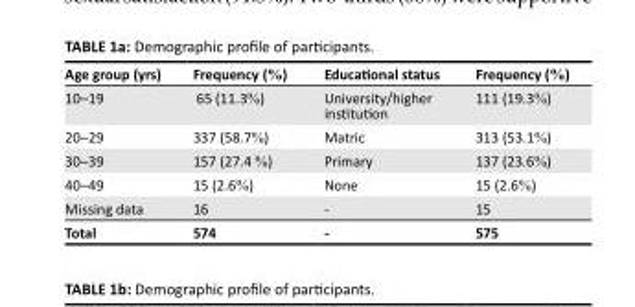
<table><thead><tr><td>Age group (yrs)</td><td>Frequency (%)</td><td>Educational status</td><td>Frequency (%)</td></tr></thead><tbody><tr><td>10–19</td><td>65 (11.3%)</td><td>University/higher institution</td><td>111 (19.3%)</td></tr><tr><td>20–29</td><td>337 (58.7%)</td><td>Matric</td><td>313 (53.1%)</td></tr><tr><td>30–39</td><td>157 (27.4 %)</td><td>Primary</td><td>137 (23.6%)</td></tr><tr><td>40–49</td><td>15 (2.6%)</td><td>None</td><td>15 (2.6%)</td></tr><tr><td>Missing data</td><td>16</td><td>-</td><td>15</td></tr><tr><td>Total</td><td>574</td><td>-</td><td>575</td></tr></tbody></table>